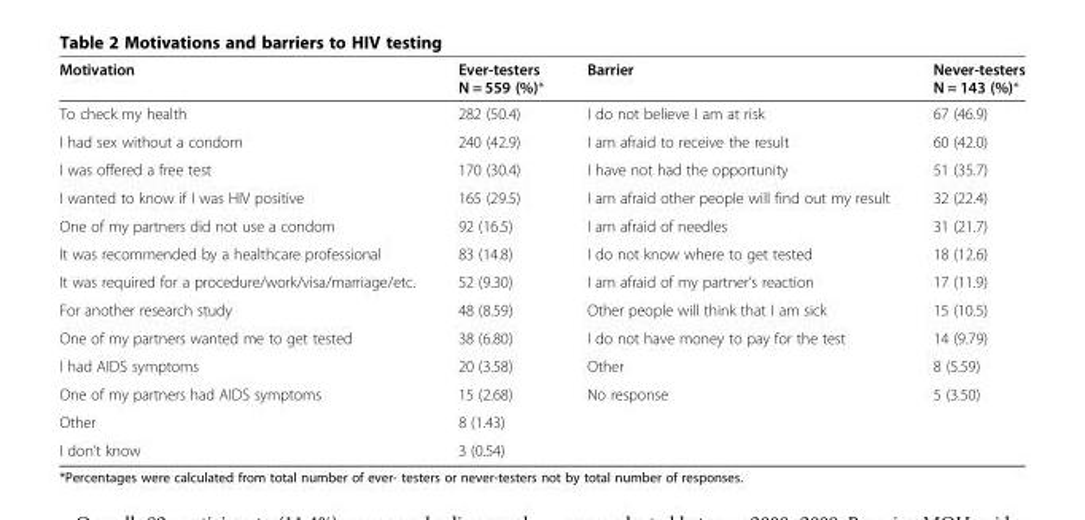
<table><thead><tr><td>Motivation</td><td>Ever-testers N = 559 (%)*</td><td>Barrier</td><td>Never-testers N = 143 (%)*</td></tr></thead><tbody><tr><td>To check my health</td><td>282 (50.4)</td><td>I do not believe I am at risk</td><td>67 (46.9)</td></tr><tr><td>I had sex without a condom</td><td>240 (42.9)</td><td>I am afraid to receive the result</td><td>60 (42.0)</td></tr><tr><td>I was offered a free test</td><td>170 (30.4)</td><td>I have not had the opportunity</td><td>51 (35.7)</td></tr><tr><td>I wanted to know if I was HIV positive</td><td>165 (29.5)</td><td>I am afraid other people will find out my result</td><td>32 (22.4)</td></tr><tr><td>One of my partners did not use a condom</td><td>92 (16.5)</td><td>I am afraid of needles</td><td>31 (21.7)</td></tr><tr><td>It was recommended by a healthcare professional</td><td>83 (14.8)</td><td>I do not know where to get tested</td><td>18 (12.6)</td></tr><tr><td>It was required for a procedure/work/visa/marriage/etc.</td><td>52 (9.30)</td><td>I am afraid of my partner’s reaction</td><td>17 (11.9)</td></tr><tr><td>For another research study</td><td>48 (8.59)</td><td>Other people will think that I am sick</td><td>15 (10.5)</td></tr><tr><td>One of my partners wanted me to get tested</td><td>38 (6.80)</td><td>I do not have money to pay for the test</td><td>14 (9.79)</td></tr><tr><td>I had AIDS symptoms</td><td>20 (3.58)</td><td>Other</td><td>8 (5.59)</td></tr><tr><td>One of my partners had AIDS symptoms</td><td>15 (2.68)</td><td>No response</td><td>5 (3.50)</td></tr><tr><td>Other</td><td>8 (1.43)</td><td></td><td></td></tr><tr><td>I don’t know</td><td>3 (0.54)</td><td></td><td></td></tr></tbody></table>